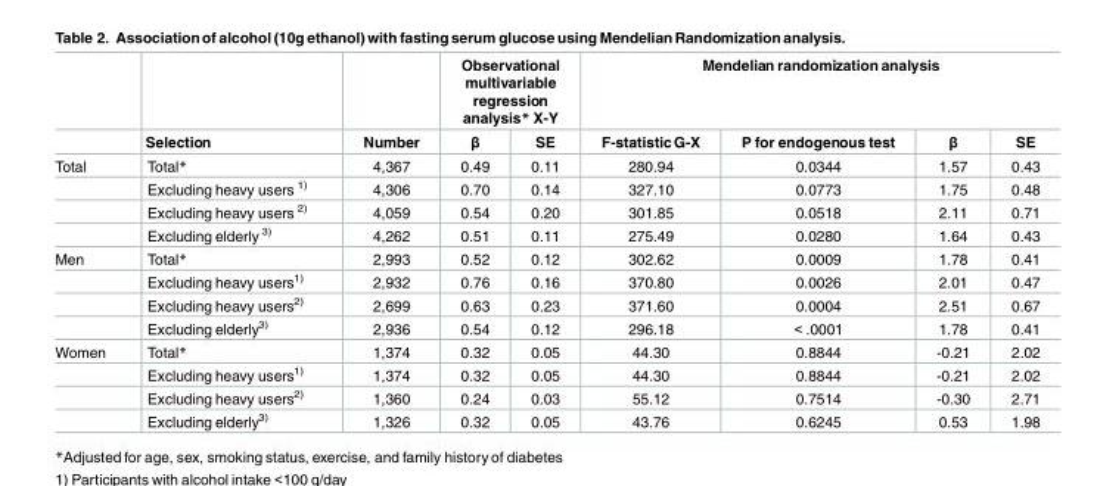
<table><thead><tr><td rowspan="2"></td><td rowspan="2">Selection</td><td rowspan="2">Number</td><td colspan="2">Observational multivariable regression analysis* X-Y</td><td colspan="4">Mendelian randomization analysis</td></tr><tr><td>β</td><td>SE</td><td>F-statisticG-X</td><td>P for endogenous test</td><td>β</td><td>SE</td></tr></thead><tbody><tr><td rowspan="4">Total</td><td>Total*</td><td>4,367</td><td>0.49</td><td>0.11</td><td>280.94</td><td>0.0344</td><td>1.57</td><td>0.43</td></tr><tr><td>Excluding heavy users <sup>1)</sup></td><td>4,306</td><td>0.70</td><td>0.14</td><td>327.10</td><td>0.0773</td><td>1.75</td><td>0.48</td></tr><tr><td>Excluding heavy users <sup>2)</sup></td><td>4,059</td><td>0.54</td><td>0.20</td><td>301.85</td><td>0.0518</td><td>2.11</td><td>0.71</td></tr><tr><td>Excluding elderly <sup>3)</sup></td><td>4,262</td><td>0.51</td><td>0.11</td><td>275.49</td><td>0.0280</td><td>1.64</td><td>0.43</td></tr><tr><td rowspan="4">Men</td><td>Total*</td><td>2,993</td><td>0.52</td><td>0.12</td><td>302.62</td><td>0.0009</td><td>1.78</td><td>0.41</td></tr><tr><td>Excluding heavy users<sup>1)</sup></td><td>2,932</td><td>0.76</td><td>0.16</td><td>370.80</td><td>0.0026</td><td>2.01</td><td>0.47</td></tr><tr><td>Excluding heavy users<sup>2)</sup></td><td>2,699</td><td>0.63</td><td>0.23</td><td>371.60</td><td>0.0004</td><td>2.51</td><td>0.67</td></tr><tr><td>Excluding elderly<sup>3)</sup></td><td>2,936</td><td>0.54</td><td>0.12</td><td>296.18</td><td>&lt; .0001</td><td>1.78</td><td>0.41</td></tr><tr><td rowspan="4">Women</td><td>Total*</td><td>1,374</td><td>0.32</td><td>0.05</td><td>44.30</td><td>0.8844</td><td>-0.21</td><td>2.02</td></tr><tr><td>Excluding heavy users<sup>1)</sup></td><td>1,374</td><td>0.32</td><td>0.05</td><td>44.30</td><td>0.8844</td><td>-0.21</td><td>2.02</td></tr><tr><td>Excluding heavy users<sup>2)</sup></td><td>1,360</td><td>0.24</td><td>0.03</td><td>55.12</td><td>0.7514</td><td>-0.30</td><td>2.71</td></tr><tr><td>Excluding elderly<sup>3)</sup></td><td>1,326</td><td>0.32</td><td>0.05</td><td>43.76</td><td>0.6245</td><td>0.53</td><td>1.98</td></tr></tbody></table>